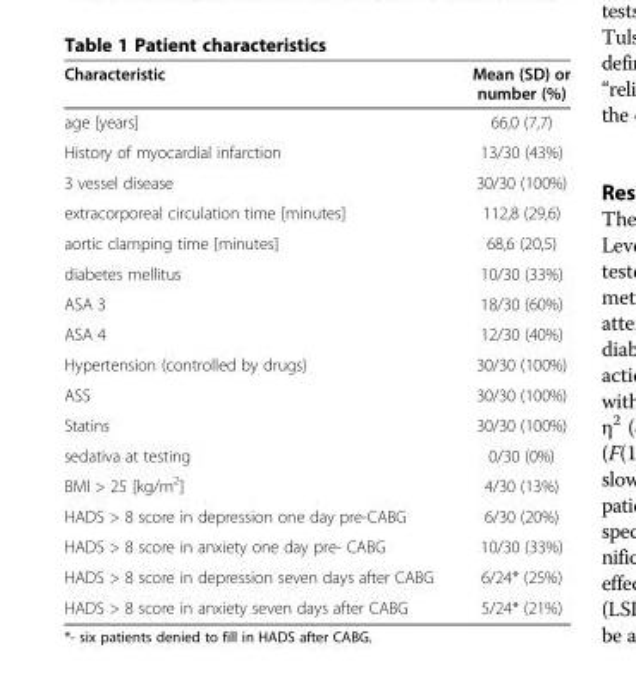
<table><thead><tr><td>Characteristic</td><td>Mean (SD) or number (%)</td></tr></thead><tbody><tr><td>age [years]</td><td>66,0 (7,7)</td></tr><tr><td>History of myocardial infarction</td><td>13/30 (43%)</td></tr><tr><td>3 vessel disease</td><td>30/30 (100%)</td></tr><tr><td>extracorporeal circulation time [minutes]</td><td>112,8 (29,6)</td></tr><tr><td>aortic clamping time [minutes]</td><td>68,6 (20,5)</td></tr><tr><td>diabetes mellitus</td><td>10/30 (33%)</td></tr><tr><td>ASA 3</td><td>18/30 (60%)</td></tr><tr><td>ASA 4</td><td>12/30 (40%)</td></tr><tr><td>Hypertension (controlled by drugs)</td><td>30/30 (100%)</td></tr><tr><td>ASS</td><td>30/30 (100%)</td></tr><tr><td>Statins</td><td>30/30 (100%)</td></tr><tr><td>sedativa at testing</td><td>0/30 (0%)</td></tr><tr><td>BMI &gt; 25 [kg/m<sup>2</sup>]</td><td>4/30 (13%)</td></tr><tr><td>HADS &gt; 8 score in depression one day pre-CABG</td><td>6/30 (20%)</td></tr><tr><td>HADS &gt; 8 score in anxiety one day pre- CABG</td><td>10/30 (33%)</td></tr><tr><td>HADS &gt; 8 score in depression seven days after CABG</td><td>6/24* (25%)</td></tr><tr><td>HADS &gt; 8 score in anxiety seven days after CABG</td><td>5/24* (21%)</td></tr></tbody></table>